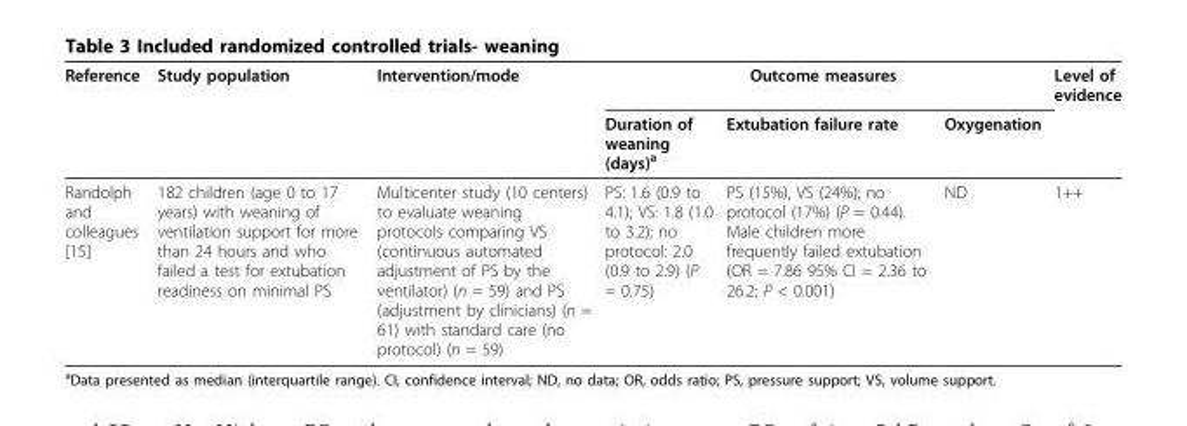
<table><thead><tr><td rowspan="2">Reference</td><td rowspan="2">Study population</td><td rowspan="2">Intervention/mode</td><td colspan="3">Outcome measures</td><td rowspan="2">Level of evidence</td></tr><tr><td>Duration of weaning (days)<sup>a</sup></td><td>Extubation failure rate</td><td>Oxygenation</td></tr></thead><tbody><tr><td>Randolph and colleagues [15]</td><td>182 children (age 0 to 17 years) with weaning of ventilation support for more than 24 hours and who failed a test for extubation readiness on minimal PS</td><td>Multicenter study (10 centers) to evaluate weaning protocols comparing VS (continuous automated adjustment of PS by the ventilator) (n = 59) and PS (adjustment by clinicians) (n = 61) with standard care (no protocol) (n = 59)</td><td>PS: 1.6 (0.9 to 4.1); VS: 1.8 (1.0 to 3.2); no protocol: 2.0 (0.9 to 2.9) (P = 0.75)</td><td>PS (15%), VS (24%); no protocol (17%) (P = 0.44). Male children more frequently failed extubation (OR = 7.86 95% CI = 2.36 to 26.2; P &lt; 0.001)</td><td>ND</td><td>1++</td></tr></tbody></table>